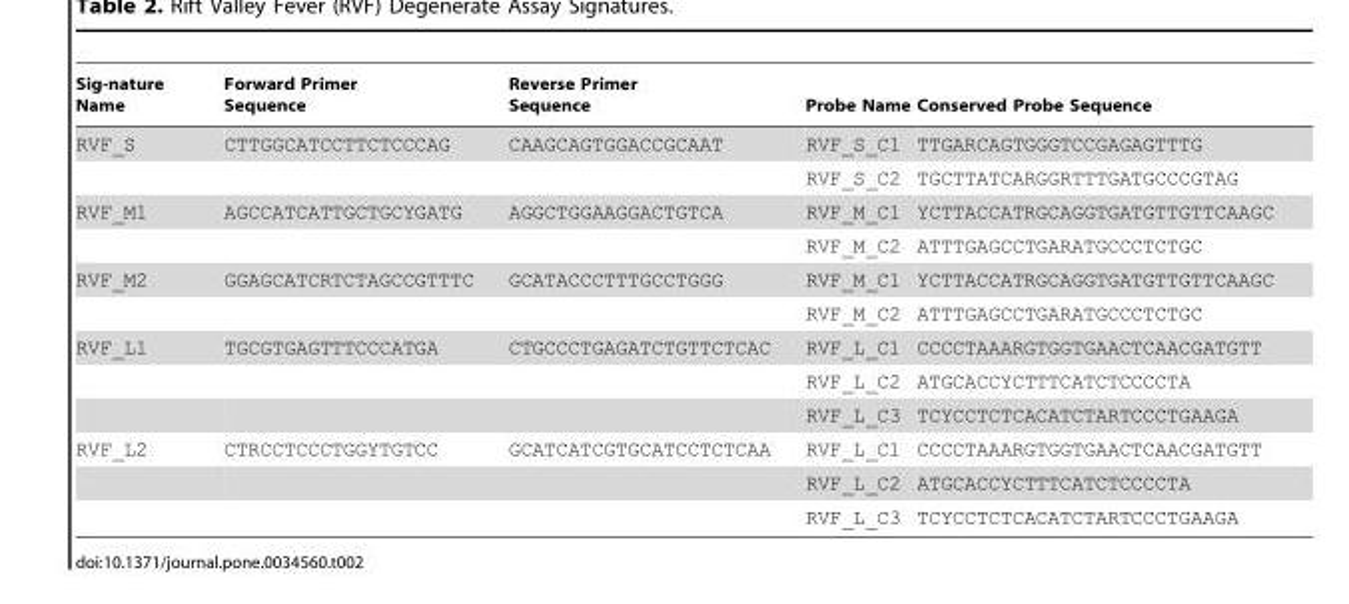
<table><thead><tr><td>Sig-nature Name</td><td>Forward Primer Sequence</td><td>Reverse Primer Sequence</td><td>Probe Name</td><td>Conserved Probe Sequence</td></tr></thead><tbody><tr><td rowspan="2">RVF_S</td><td>CTTGGCATCCTTCTCCCAG</td><td>CAAGCAGTGGACCGCAAT</td><td>RVF_S_C1</td><td>TTGARCAGTGGGTCCGAGAGTTTG</td></tr><tr><td></td><td></td><td>RVF_S_C2</td><td>TGCTTATCARGGRTTTGATGCCCGTAG</td></tr><tr><td rowspan="2">RVF_M1</td><td>AGCCATCATTGCTGCYGATG</td><td>AGGCTGGAAGGACTGTCA</td><td>RVF_M_C1</td><td>YCTTACCATRGCAGGTGATGTTGTTCAAGC</td></tr><tr><td></td><td></td><td>RVF_M_C2</td><td>ATTTGAGCCTGARATGCCCTCTGC</td></tr><tr><td rowspan="2">RVF_M2</td><td>GGAGCATCRTCTAGCCGTTTC</td><td>GCATACCCTTTGCCTGGG</td><td>RVF_M_C1</td><td>YCTTACCATRGCAGGTGATGTTGTTCAAGC</td></tr><tr><td></td><td></td><td>RVF_M_C2</td><td>ATTTGAGCCTGARATGCCCTCTGC</td></tr><tr><td rowspan="3">RVF_L1</td><td>TGCGTGAGTTTCCCATGA</td><td>CTGCCCTGAGATCTGTTCTCAC</td><td>RVF_L_C1</td><td>CCCCTAAARGTGGTGAACTCAACGATGTT</td></tr><tr><td></td><td></td><td>RVF_L_C2</td><td>ATGCACCYCTTTCATCTCCCCTA</td></tr><tr><td></td><td></td><td>RVF_L_C3</td><td>TCYCCTCTCACATCTARTCCCTGAAGA</td></tr><tr><td rowspan="3">RVF_L2</td><td>CTRCCTCCCTGGYTGTCC</td><td>GCATCATCGTGCATCCTCTCAA</td><td>RVF_L_C1</td><td>CCCCTAAARGTGGTGAACTCAACGATGTT</td></tr><tr><td></td><td></td><td>RVF_L_C2</td><td>ATGCACCYCTTTCATCTCCCCTA</td></tr><tr><td></td><td></td><td>RVF_L_C3</td><td>TCYCCTCTCACATCTARTCCCTGAAGA</td></tr></tbody></table>